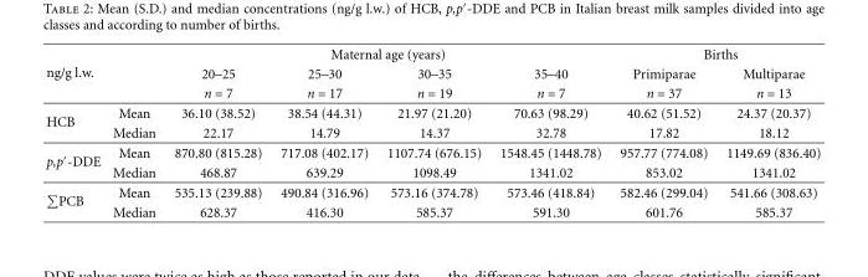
<table><tbody><tr><td rowspan="3">ng/g l.w.</td><td></td><td colspan="4">Maternal age (years)</td><td colspan="2">Births</td></tr><tr><td></td><td>20–25</td><td>25–30</td><td>30–35</td><td>35–40</td><td>Primiparae</td><td>Multiparae</td></tr><tr><td></td><td>n = 7</td><td>n = 17</td><td>n = 19</td><td>n = 7</td><td>n = 37</td><td>n = 13</td></tr><tr><td rowspan="2">HCB</td><td>Mean</td><td>36.10 (38.52)</td><td>38.54 (44.31)</td><td>21.97 (21.20)</td><td>70.63 (98.29)</td><td>40.62 (51.52)</td><td>24.37 (20.37)</td></tr><tr><td>Median</td><td>22.17</td><td>14.79</td><td>14.37</td><td>32.78</td><td>17.82</td><td>18.12</td></tr><tr><td rowspan="2">p,p′-DDE</td><td>Mean</td><td>870.80 (815.28)</td><td>717.08 (402.17)</td><td>1107.74 (676.15)</td><td>1548.45 (1448.78)</td><td>957.77 (774.08)</td><td>1149.69 (836.40)</td></tr><tr><td>Median</td><td>468.87</td><td>639.29</td><td>1098.49</td><td>1341.02</td><td>853.02</td><td>1341.02</td></tr><tr><td rowspan="2">∑PCB</td><td>Mean</td><td>535.13 (239.88)</td><td>490.84 (316.96)</td><td>573.16 (374.78)</td><td>573.46 (418.84)</td><td>582.46 (299.04)</td><td>541.66 (308.63)</td></tr><tr><td>Median</td><td>628.37</td><td>416.30</td><td>585.37</td><td>591.30</td><td>601.76</td><td>585.37</td></tr></tbody></table>